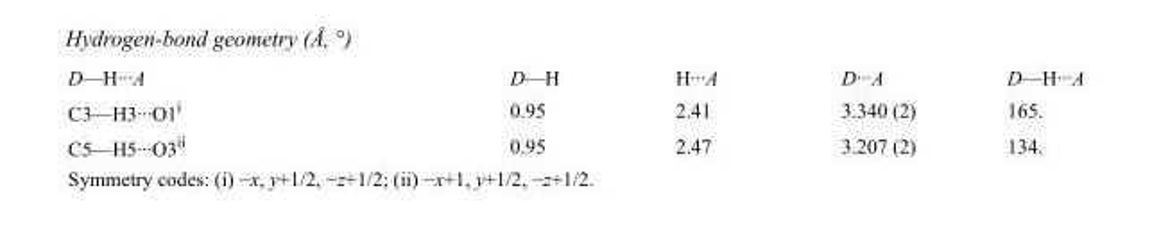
<table><tbody><tr><td>D—H···A</td><td>D—H</td><td>H···A</td><td>D···A</td><td>D—H···A</td></tr><tr><td>C3—H3···O1<sup>i</sup></td><td>0.95</td><td>2.41</td><td>3.340 (2)</td><td>165.</td></tr><tr><td>C5—H5···O3<sup>ii</sup></td><td>0.95</td><td>2.47</td><td>3.207 (2)</td><td>134.</td></tr></tbody></table>